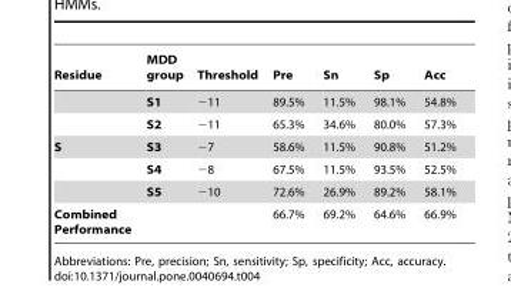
<table><thead><tr><td>Residue</td><td>MDD group</td><td>Threshold</td><td>Pre</td><td>Sn</td><td>Sp</td><td>Acc</td></tr></thead><tbody><tr><td></td><td>S1</td><td>−11</td><td>89.5%</td><td>11.5%</td><td>98.1%</td><td>54.8%</td></tr><tr><td></td><td>S2</td><td>−11</td><td>65.3%</td><td>34.6%</td><td>80.0%</td><td>57.3%</td></tr><tr><td rowspan="3">S</td><td>S3</td><td>−7</td><td>58.6%</td><td>11.5%</td><td>90.8%</td><td>51.2%</td></tr><tr><td>S4</td><td>−8</td><td>67.5%</td><td>11.5%</td><td>93.5%</td><td>52.5%</td></tr><tr><td>S5</td><td>−10</td><td>72.6%</td><td>26.9%</td><td>89.2%</td><td>58.1%</td></tr><tr><td>Combined Performance</td><td></td><td></td><td>66.7%</td><td>69.2%</td><td>64.6%</td><td>66.9%</td></tr></tbody></table>